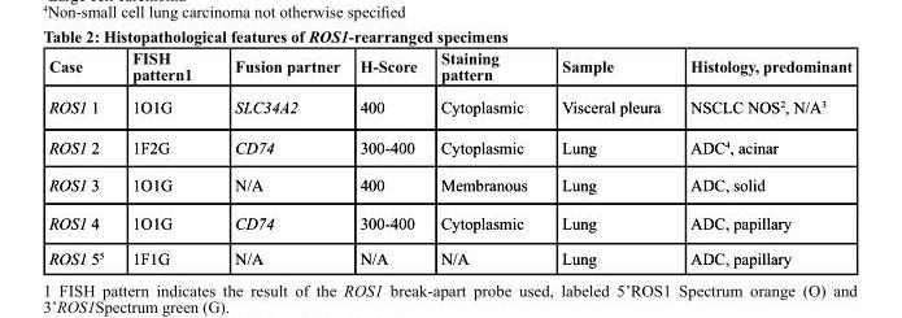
<table><thead><tr><td>case</td><td>FIsH pattern<sup>1</sup></td><td>Fusion partner</td><td>H-score</td><td>staining pattern</td><td>sample</td><td>Histology, predominant</td></tr></thead><tbody><tr><td>ROS1 1</td><td>1O1G</td><td>SLC34A2</td><td>400</td><td>Cytoplasmic</td><td>Visceral pleura</td><td>NSCLC NOS<sup>2</sup>, N/A<sup>3</sup></td></tr><tr><td>ROS1 2</td><td>1F2G</td><td>CD74</td><td>300-400</td><td>Cytoplasmic</td><td>Lung</td><td>ADC<sup>4</sup>, acinar</td></tr><tr><td>ROS1 3</td><td>1O1G</td><td>N/A</td><td>400</td><td>Membranous</td><td>Lung</td><td>ADC, solid</td></tr><tr><td>ROS1 4</td><td>1O1G</td><td>CD74</td><td>300-400</td><td>Cytoplasmic</td><td>Lung</td><td>ADC, papillary</td></tr><tr><td>ROS1 5<sup>5</sup></td><td>1F1G</td><td>N/A</td><td>N/A</td><td>N/A</td><td>Lung</td><td>ADC, papillary</td></tr></tbody></table>